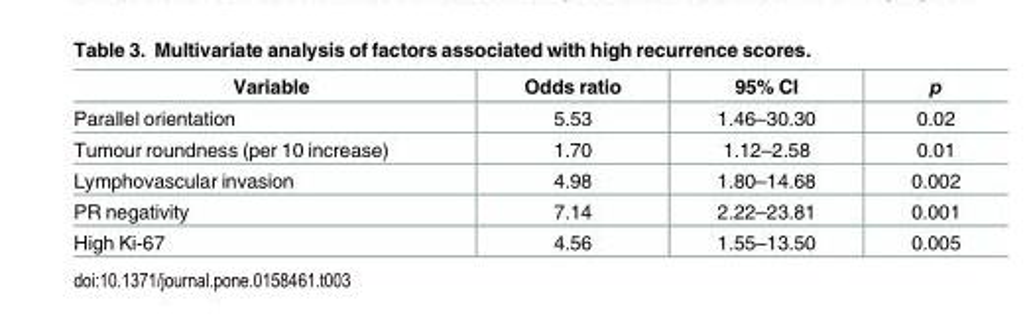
<table><thead><tr><td>Variable</td><td>Odds ratio</td><td>95% CI</td><td>p</td></tr></thead><tbody><tr><td>Parallel orientation</td><td>5.53</td><td>1.46–30.30</td><td>0.02</td></tr><tr><td>Tumour roundness (per 10 increase)</td><td>1.70</td><td>1.12–2.58</td><td>0.01</td></tr><tr><td>Lymphovascular invasion</td><td>4.98</td><td>1.80–14.68</td><td>0.002</td></tr><tr><td>PR negativity</td><td>7.14</td><td>2.22–23.81</td><td>0.001</td></tr><tr><td>High Ki-67</td><td>4.56</td><td>1.55–13.50</td><td>0.005</td></tr></tbody></table>